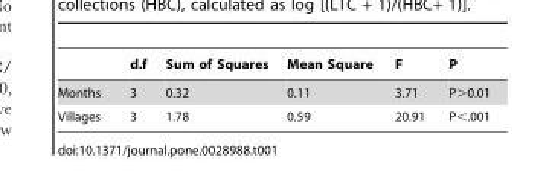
<table><thead><tr><td></td><td>d.f</td><td>Sum of Squares</td><td>Mean Square</td><td>F</td><td>P</td></tr></thead><tbody><tr><td>Months</td><td>3</td><td>0.32</td><td>0.11</td><td>3.71</td><td>P&gt;0.01</td></tr><tr><td>Villages</td><td>3</td><td>1.78</td><td>0.59</td><td>20.91</td><td>P&lt;.001</td></tr></tbody></table>